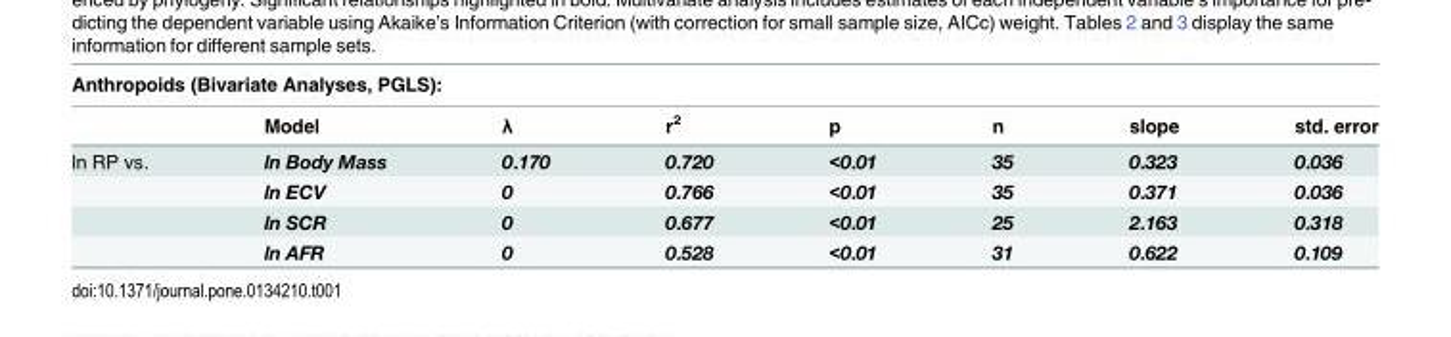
<table><thead><tr><td colspan="8">Anthropoids (Bivariate Analyses, PGLS):</td></tr><tr><td></td><td>Model</td><td>λ</td><td>r<sup>2</sup></td><td>p</td><td>n</td><td>slope</td><td>std. error</td></tr></thead><tbody><tr><td rowspan="4">ln RP vs.</td><td>ln Body Mass</td><td>0.170</td><td>0.720</td><td>&lt;0.01</td><td>35</td><td>0.323</td><td>0.036</td></tr><tr><td>ln ECV</td><td>0</td><td>0.766</td><td>&lt;0.01</td><td>35</td><td>0.371</td><td>0.036</td></tr><tr><td>ln SCR</td><td>0</td><td>0.677</td><td>&lt;0.01</td><td>25</td><td>2.163</td><td>0.318</td></tr><tr><td>ln AFR</td><td>0</td><td>0.528</td><td>&lt;0.01</td><td>31</td><td>0.622</td><td>0.109</td></tr></tbody></table>